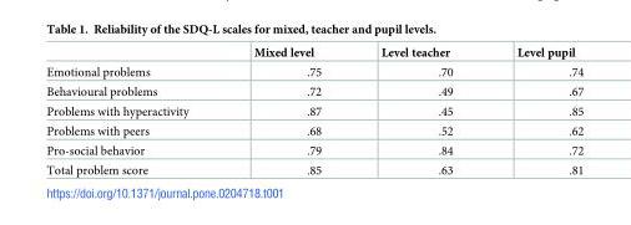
<table><thead><tr><td></td><td>Mixed level</td><td>Level teacher</td><td>Level pupil</td></tr></thead><tbody><tr><td>Emotional problems</td><td>.75</td><td>.70</td><td>.74</td></tr><tr><td>Behavioural problems</td><td>.72</td><td>.49</td><td>.67</td></tr><tr><td>Problems with hyperactivity</td><td>.87</td><td>.45</td><td>.85</td></tr><tr><td>Problems with peers</td><td>.68</td><td>.52</td><td>.62</td></tr><tr><td>Pro-social behavior</td><td>.79</td><td>.84</td><td>.72</td></tr><tr><td>Total problem score</td><td>.85</td><td>.63</td><td>.81</td></tr></tbody></table>